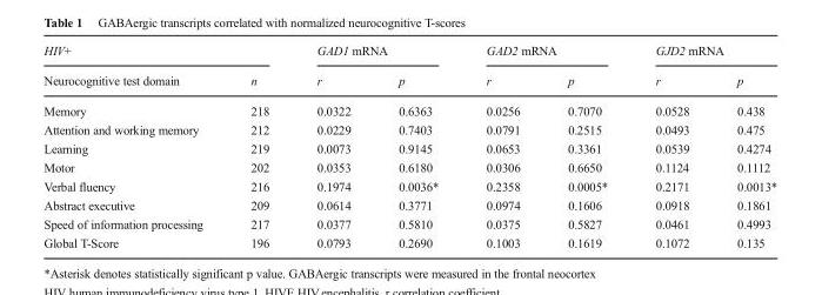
<table><thead><tr><td colspan="2">HIV+</td><td colspan="2">GAD1 mRNA</td><td colspan="2">GAD2 mRNA</td><td colspan="2">GJD2 mRNA</td></tr><tr><td>Neurocognitive test domain</td><td>n</td><td>r</td><td>p</td><td>r</td><td>p</td><td>r</td><td>p</td></tr></thead><tbody><tr><td>Memory</td><td>218</td><td>0.0322</td><td>0.6363</td><td>0.0256</td><td>0.7070</td><td>0.0528</td><td>0.438</td></tr><tr><td>Attention and working memory</td><td>212</td><td>0.0229</td><td>0.7403</td><td>0.0791</td><td>0.2515</td><td>0.0493</td><td>0.475</td></tr><tr><td>Learning</td><td>219</td><td>0.0073</td><td>0.9145</td><td>0.0653</td><td>0.3361</td><td>0.0539</td><td>0.4274</td></tr><tr><td>Motor</td><td>202</td><td>0.0353</td><td>0.6180</td><td>0.0306</td><td>0.6650</td><td>0.1124</td><td>0.1112</td></tr><tr><td>Verbal fluency</td><td>216</td><td>0.1974</td><td>0.0036*</td><td>0.2358</td><td>0.0005*</td><td>0.2171</td><td>0.0013*</td></tr><tr><td>Abstract executive</td><td>209</td><td>0.0614</td><td>0.3771</td><td>0.0974</td><td>0.1606</td><td>0.0918</td><td>0.1861</td></tr><tr><td>Speed of information processing</td><td>217</td><td>0.0377</td><td>0.5810</td><td>0.0375</td><td>0.5827</td><td>0.0461</td><td>0.4993</td></tr><tr><td>Global T-Score</td><td>196</td><td>0.0793</td><td>0.2690</td><td>0.1003</td><td>0.1619</td><td>0.1072</td><td>0.135</td></tr></tbody></table>